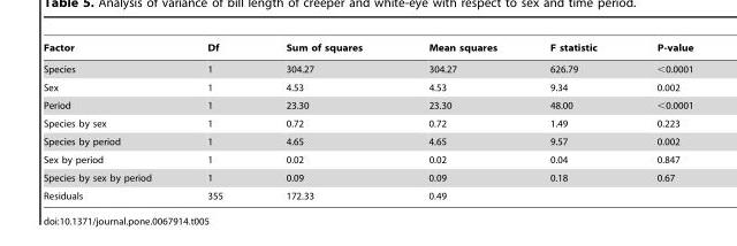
<table><thead><tr><td>Factor</td><td>Df</td><td>Sum of squares</td><td>Mean squares</td><td>F statistic</td><td>P-value</td></tr></thead><tbody><tr><td>Species</td><td>1</td><td>304.27</td><td>304.27</td><td>626.79</td><td>&lt;0.0001</td></tr><tr><td>Sex</td><td>1</td><td>4.53</td><td>4.53</td><td>9.34</td><td>0.002</td></tr><tr><td>Period</td><td>1</td><td>23.30</td><td>23.30</td><td>48.00</td><td>&lt;0.0001</td></tr><tr><td>Species by sex</td><td>1</td><td>0.72</td><td>0.72</td><td>1.49</td><td>0.223</td></tr><tr><td>Species by period</td><td>1</td><td>4.65</td><td>4.65</td><td>9.57</td><td>0.002</td></tr><tr><td>Sex by period</td><td>1</td><td>0.02</td><td>0.02</td><td>0.04</td><td>0.847</td></tr><tr><td>Species by sex by period</td><td>1</td><td>0.09</td><td>0.09</td><td>0.18</td><td>0.67</td></tr><tr><td>Residuals</td><td>355</td><td>172.33</td><td>0.49</td><td></td><td></td></tr></tbody></table>